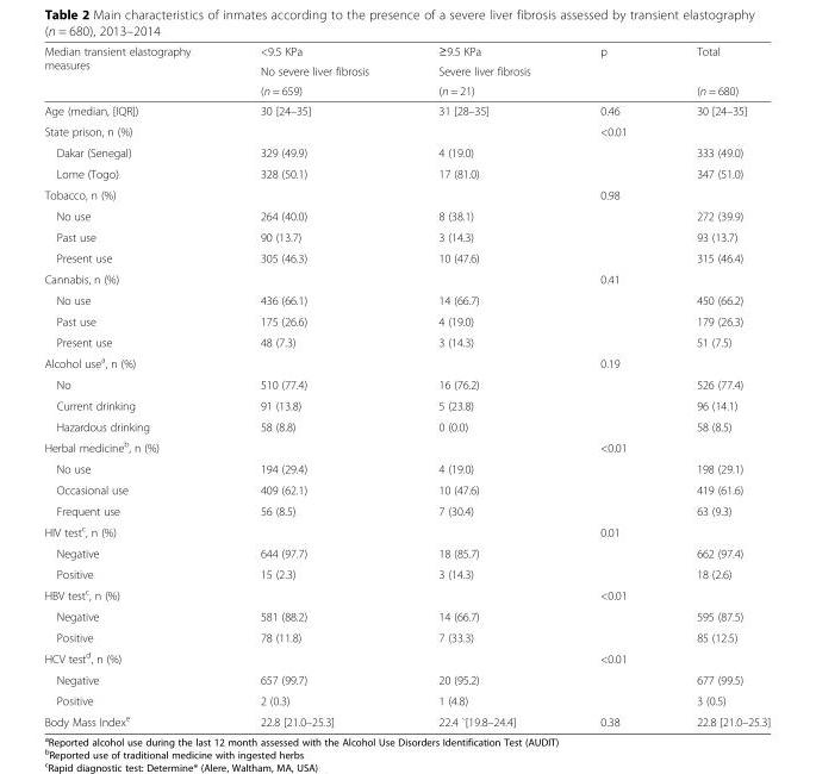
<table><thead><tr><td rowspan="3">Median transient elastography measures</td><td rowspan="3">&lt;9.5 KPa No severe liver fibrosis (n = 659)</td><td rowspan="3">≥9.5 KPa Severe liver fibrosis (n = 21)</td><td rowspan="3">p</td><td rowspan="3">Total (n = 680)</td></tr><tr></tr><tr></tr></thead><tbody><tr><td>Age (median, [IQR])</td><td>30 [24–35]</td><td>31 [28–35]</td><td>0.46</td><td>30 [24–35]</td></tr><tr><td>State prison, n (%)</td><td></td><td></td><td>&lt;0.01</td><td></td></tr><tr><td>Dakar (Senegal)</td><td>329 (49.9)</td><td>4 (19.0)</td><td></td><td>333 (49.0)</td></tr><tr><td>Lome (Togo)</td><td>328 (50.1)</td><td>17 (81.0)</td><td></td><td>347 (51.0)</td></tr><tr><td>Tobacco, n (%)</td><td></td><td></td><td>0.98</td><td></td></tr><tr><td>No use</td><td>264 (40.0)</td><td>8 (38.1)</td><td></td><td>272 (39.9)</td></tr><tr><td>Past use</td><td>90 (13.7)</td><td>3 (14.3)</td><td></td><td>93 (13.7)</td></tr><tr><td>Present use</td><td>305 (46.3)</td><td>10 (47.6)</td><td></td><td>315 (46.4)</td></tr><tr><td>Cannabis, n (%)</td><td></td><td></td><td>0.41</td><td></td></tr><tr><td>No use</td><td>436 (66.1)</td><td>14 (66.7)</td><td></td><td>450 (66.2)</td></tr><tr><td>Past use</td><td>175 (26.6)</td><td>4 (19.0)</td><td></td><td>179 (26.3)</td></tr><tr><td>Present use</td><td>48 (7.3)</td><td>3 (14.3)</td><td></td><td>51 (7.5)</td></tr><tr><td>Alcohol use<sup>a</sup>, n (%)</td><td></td><td></td><td>0.19</td><td></td></tr><tr><td>No</td><td>510 (77.4)</td><td>16 (76.2)</td><td></td><td>526 (77.4)</td></tr><tr><td>Current drinking</td><td>91 (13.8)</td><td>5 (23.8)</td><td></td><td>96 (14.1)</td></tr><tr><td>Hazardous drinking</td><td>58 (8.8)</td><td>0 (0.0)</td><td></td><td>58 (8.5)</td></tr><tr><td>Herbal medicine<sup>b</sup>, n (%)</td><td></td><td></td><td>&lt;0.01</td><td></td></tr><tr><td>No use</td><td>194 (29.4)</td><td>4 (19.0)</td><td></td><td>198 (29.1)</td></tr><tr><td>Occasional use</td><td>409 (62.1)</td><td>10 (47.6)</td><td></td><td>419 (61.6)</td></tr><tr><td>Frequent use</td><td>56 (8.5)</td><td>7 (30.4)</td><td></td><td>63 (9.3)</td></tr><tr><td>HIV test<sup>c</sup>, n (%)</td><td></td><td></td><td>0.01</td><td></td></tr><tr><td>Negative</td><td>644 (97.7)</td><td>18 (85.7)</td><td></td><td>662 (97.4)</td></tr><tr><td>Positive</td><td>15 (2.3)</td><td>3 (14.3)</td><td></td><td>18 (2.6)</td></tr><tr><td>HBV test<sup>c</sup>, n (%)</td><td></td><td></td><td>&lt;0.01</td><td></td></tr><tr><td>Negative</td><td>581 (88.2)</td><td>14 (66.7)</td><td></td><td>595 (87.5)</td></tr><tr><td>Positive</td><td>78 (11.8)</td><td>7 (33.3)</td><td></td><td>85 (12.5)</td></tr><tr><td>HCV test<sup>d</sup>, n (%)</td><td></td><td></td><td>&lt;0.01</td><td></td></tr><tr><td>Negative</td><td>657 (99.7)</td><td>20 (95.2)</td><td></td><td>677 (99.5)</td></tr><tr><td>Positive</td><td>2 (0.3)</td><td>1 (4.8)</td><td></td><td>3 (0.5)</td></tr><tr><td>Body Mass Index<sup>e</sup></td><td>22.8 [21.0–25.3]</td><td>22.4 `[19.8–24.4]</td><td>0.38</td><td>22.8 [21.0–25.3]</td></tr></tbody></table>